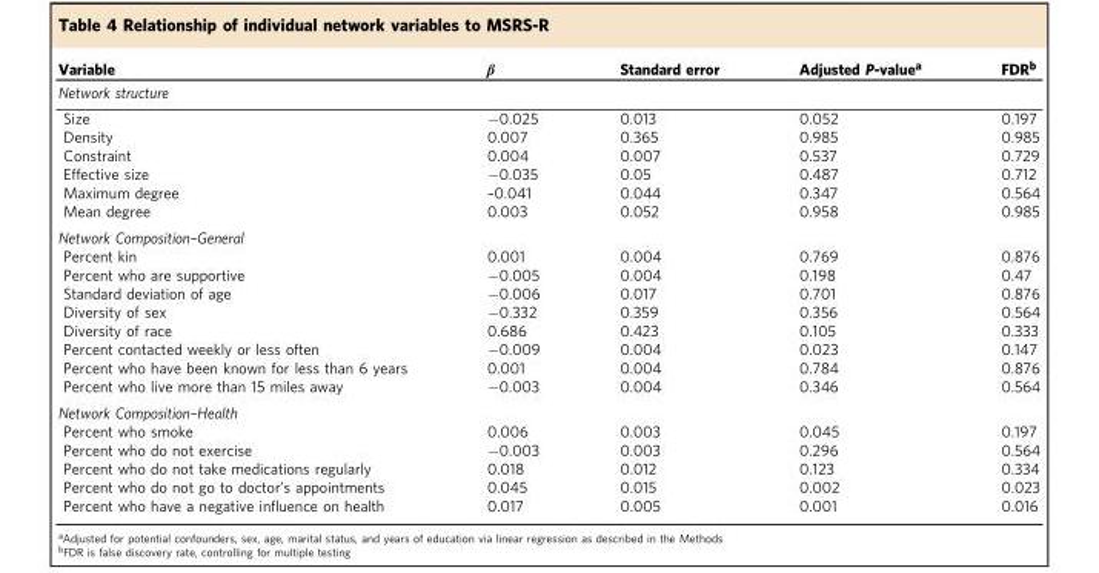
<table><thead><tr><td>Variable</td><td>β</td><td>Standard error</td><td>Adjusted P-value<sup>a</sup></td><td>FDR<sup>b</sup></td></tr></thead><tbody><tr><td colspan="5">Network structure</td></tr><tr><td>Size</td><td>−0.025</td><td>0.013</td><td>0.052</td><td>0.197</td></tr><tr><td>Density</td><td>0.007</td><td>0.365</td><td>0.985</td><td>0.985</td></tr><tr><td>Constraint</td><td>0.004</td><td>0.007</td><td>0.537</td><td>0.729</td></tr><tr><td>Effective size</td><td>−0.035</td><td>0.05</td><td>0.487</td><td>0.712</td></tr><tr><td>Maximum degree</td><td>–0.041</td><td>0.044</td><td>0.347</td><td>0.564</td></tr><tr><td>Mean degree</td><td>0.003</td><td>0.052</td><td>0.958</td><td>0.985</td></tr><tr><td colspan="5">Network Composition–General</td></tr><tr><td>Percent kin</td><td>0.001</td><td>0.004</td><td>0.769</td><td>0.876</td></tr><tr><td>Percent who are supportive</td><td>−0.005</td><td>0.004</td><td>0.198</td><td>0.47</td></tr><tr><td>Standard deviation of age</td><td>−0.006</td><td>0.017</td><td>0.701</td><td>0.876</td></tr><tr><td>Diversity of sex</td><td>−0.332</td><td>0.359</td><td>0.356</td><td>0.564</td></tr><tr><td>Diversity of race</td><td>0.686</td><td>0.423</td><td>0.105</td><td>0.333</td></tr><tr><td>Percent contacted weekly or less often</td><td>−0.009</td><td>0.004</td><td>0.023</td><td>0.147</td></tr><tr><td>Percent who have been known for less than 6 years</td><td>0.001</td><td>0.004</td><td>0.784</td><td>0.876</td></tr><tr><td>Percent who live more than 15 miles away</td><td>−0.003</td><td>0.004</td><td>0.346</td><td>0.564</td></tr><tr><td colspan="5">Network Composition–Health</td></tr><tr><td>Percent who smoke</td><td>0.006</td><td>0.003</td><td>0.045</td><td>0.197</td></tr><tr><td>Percent who do not exercise</td><td>−0.003</td><td>0.003</td><td>0.296</td><td>0.564</td></tr><tr><td>Percent who do not take medications regularly</td><td>0.018</td><td>0.012</td><td>0.123</td><td>0.334</td></tr><tr><td>Percent who do not go to doctor’s appointments</td><td>0.045</td><td>0.015</td><td>0.002</td><td>0.023</td></tr><tr><td>Percent who have a negative influence on health</td><td>0.017</td><td>0.005</td><td>0.001</td><td>0.016</td></tr></tbody></table>